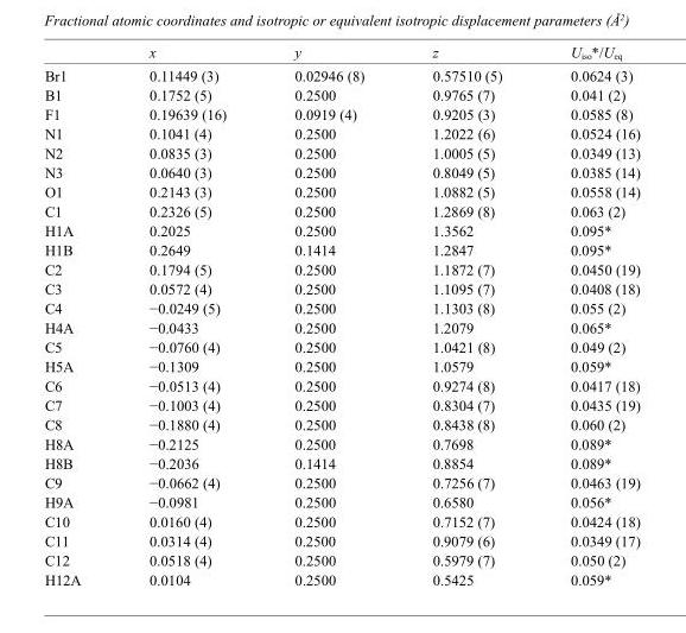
<table><thead><tr><td></td><td>x</td><td>y</td><td>z</td><td>U<sub>iso</sub>*/U<sub>eq</sub></td></tr></thead><tbody><tr><td>Br1</td><td>0.11449 (3)</td><td>0.02946 (8)</td><td>0.57510 (5)</td><td>0.0624 (3)</td></tr><tr><td>B1</td><td>0.1752 (5)</td><td>0.2500</td><td>0.9765 (7)</td><td>0.041 (2)</td></tr><tr><td>F1</td><td>0.19639 (16)</td><td>0.0919 (4)</td><td>0.9205 (3)</td><td>0.0585 (8)</td></tr><tr><td>N1</td><td>0.1041 (4)</td><td>0.2500</td><td>1.2022 (6)</td><td>0.0524 (16)</td></tr><tr><td>N2</td><td>0.0835 (3)</td><td>0.2500</td><td>1.0005 (5)</td><td>0.0349 (13)</td></tr><tr><td>N3</td><td>0.0640 (3)</td><td>0.2500</td><td>0.8049 (5)</td><td>0.0385 (14)</td></tr><tr><td>O1</td><td>0.2143 (3)</td><td>0.2500</td><td>1.0882 (5)</td><td>0.0558 (14)</td></tr><tr><td>C1</td><td>0.2326 (5)</td><td>0.2500</td><td>1.2869 (8)</td><td>0.063 (2)</td></tr><tr><td>H1A</td><td>0.2025</td><td>0.2500</td><td>1.3562</td><td>0.095*</td></tr><tr><td>H1B</td><td>0.2649</td><td>0.1414</td><td>1.2847</td><td>0.095*</td></tr><tr><td>C2</td><td>0.1794 (5)</td><td>0.2500</td><td>1.1872 (7)</td><td>0.0450 (19)</td></tr><tr><td>C3</td><td>0.0572 (4)</td><td>0.2500</td><td>1.1095 (7)</td><td>0.0408 (18)</td></tr><tr><td>C4</td><td>−0.0249 (5)</td><td>0.2500</td><td>1.1303 (8)</td><td>0.055 (2)</td></tr><tr><td>H4A</td><td>−0.0433</td><td>0.2500</td><td>1.2079</td><td>0.065*</td></tr><tr><td>C5</td><td>−0.0760 (4)</td><td>0.2500</td><td>1.0421 (8)</td><td>0.049 (2)</td></tr><tr><td>H5A</td><td>−0.1309</td><td>0.2500</td><td>1.0579</td><td>0.059*</td></tr><tr><td>C6</td><td>−0.0513 (4)</td><td>0.2500</td><td>0.9274 (8)</td><td>0.0417 (18)</td></tr><tr><td>C7</td><td>−0.1003 (4)</td><td>0.2500</td><td>0.8304 (7)</td><td>0.0435 (19)</td></tr><tr><td>C8</td><td>−0.1880 (4)</td><td>0.2500</td><td>0.8438 (8)</td><td>0.060 (2)</td></tr><tr><td>H8A</td><td>−0.2125</td><td>0.2500</td><td>0.7698</td><td>0.089*</td></tr><tr><td>H8B</td><td>−0.2036</td><td>0.1414</td><td>0.8854</td><td>0.089*</td></tr><tr><td>C9</td><td>−0.0662 (4)</td><td>0.2500</td><td>0.7256 (7)</td><td>0.0463 (19)</td></tr><tr><td>H9A</td><td>−0.0981</td><td>0.2500</td><td>0.6580</td><td>0.056*</td></tr><tr><td>C10</td><td>0.0160 (4)</td><td>0.2500</td><td>0.7152 (7)</td><td>0.0424 (18)</td></tr><tr><td>C11</td><td>0.0314 (4)</td><td>0.2500</td><td>0.9079 (6)</td><td>0.0349 (17)</td></tr><tr><td>C12</td><td>0.0518 (4)</td><td>0.2500</td><td>0.5979 (7)</td><td>0.050 (2)</td></tr><tr><td>H12A</td><td>0.0104</td><td>0.2500</td><td>0.5425</td><td>0.059*</td></tr></tbody></table>